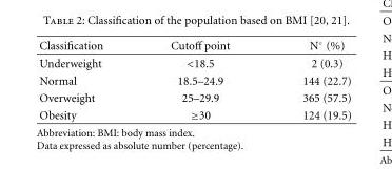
<table><thead><tr><td>Classification</td><td>Cutoff point</td><td>N◦ (%)</td></tr></thead><tbody><tr><td>Underweight</td><td>&lt;18.5</td><td>2 (0.3)</td></tr><tr><td>Normal</td><td>18.5–24.9</td><td>144 (22.7)</td></tr><tr><td>Overweight</td><td>25–29.9</td><td>365 (57.5)</td></tr><tr><td>Obesity</td><td>≥30</td><td>124 (19.5)</td></tr></tbody></table>